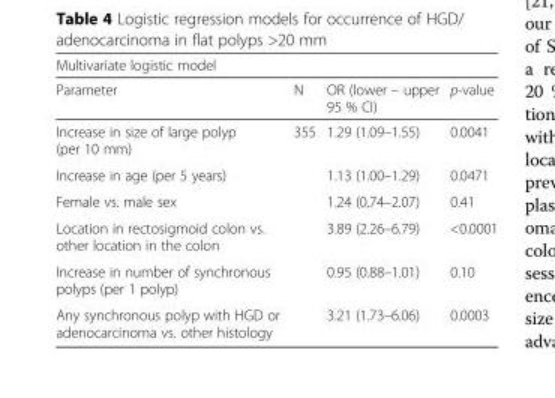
<table><thead><tr><td colspan="4">Multivariate logistic model</td></tr><tr><td>Parameter</td><td>N</td><td>OR (lower – upper 95 % CI)</td><td>p-value</td></tr></thead><tbody><tr><td>Increase in size of large polyp (per 10 mm)</td><td rowspan="6">355</td><td>1.29 (1.09–1.55)</td><td>0.0041</td></tr><tr><td>Increase in age (per 5 years)</td><td>1.13 (1.00–1.29)</td><td>0.0471</td></tr><tr><td>Female vs. male sex</td><td>1.24 (0.74–2.07)</td><td>0.41</td></tr><tr><td>Location in rectosigmoid colon vs. other location in the colon</td><td>3.89 (2.26–6.79)</td><td>&lt;0.0001</td></tr><tr><td>Increase in number of synchronous polyps (per 1 polyp)</td><td>0.95 (0.88–1.01)</td><td>0.10</td></tr><tr><td>Any synchronous polyp with HGD or adenocarcinoma vs. other histology</td><td>3.21 (1.73–6.06)</td><td>0.0003</td></tr></tbody></table>